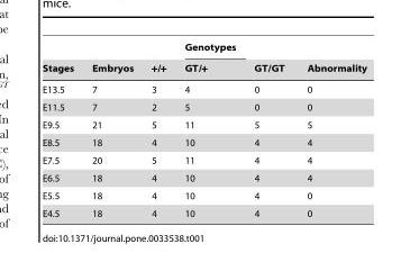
<table><thead><tr><td rowspan="2">Stages</td><td rowspan="2">Embryos</td><td rowspan="2">+/+</td><td rowspan="2">Genotypes GT/+</td><td rowspan="2">GT/GT</td><td rowspan="2">Abnormality</td></tr><tr></tr></thead><tbody><tr><td>E13.5</td><td>7</td><td>3</td><td>4</td><td>0</td><td>0</td></tr><tr><td>E11.5</td><td>7</td><td>2</td><td>5</td><td>0</td><td>0</td></tr><tr><td>E9.5</td><td>21</td><td>5</td><td>11</td><td>5</td><td>5</td></tr><tr><td>E8.5</td><td>18</td><td>4</td><td>10</td><td>4</td><td>4</td></tr><tr><td>E7.5</td><td>20</td><td>5</td><td>11</td><td>4</td><td>4</td></tr><tr><td>E6.5</td><td>18</td><td>4</td><td>10</td><td>4</td><td>4</td></tr><tr><td>E5.5</td><td>18</td><td>4</td><td>10</td><td>4</td><td>0</td></tr><tr><td>E4.5</td><td>18</td><td>4</td><td>10</td><td>4</td><td>0</td></tr></tbody></table>